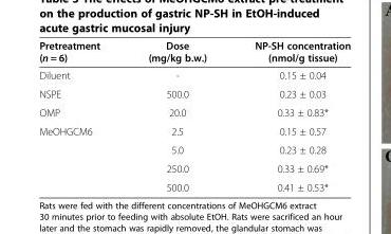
<table><thead><tr><td>Pretreatment (n = 6)</td><td>Dose (mg/kg b.w.)</td><td>NP-SH concentration (nmol/g tissue)</td></tr></thead><tbody><tr><td>Diluent</td><td>-</td><td>0.15 ± 0.04</td></tr><tr><td>NSPE</td><td>500.0</td><td>0.23 ± 0.03</td></tr><tr><td>OMP</td><td>20.0</td><td>0.33 ± 0.83*</td></tr><tr><td rowspan="4">MeOHGCM6</td><td>2.5</td><td>0.15 ± 0.57</td></tr><tr><td>5.0</td><td>0.23 ± 0.28</td></tr><tr><td>250.0</td><td>0.33 ± 0.69*</td></tr><tr><td>500.0</td><td>0.41 ± 0.53*</td></tr></tbody></table>